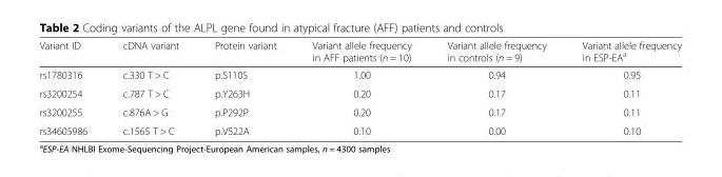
<table><thead><tr><td>Variant ID</td><td>cDNA variant</td><td>Protein variant</td><td>Variant allele frequency in AFF patients (n = 10)</td><td>Variant allele frequency in controls (n = 9)</td><td>Variant allele frequency in ESP-EA<sup>a</sup></td></tr></thead><tbody><tr><td>rs1780316</td><td>c.330 T &gt; C</td><td>p.S110S</td><td>1.00</td><td>0.94</td><td>0.95</td></tr><tr><td>rs3200254</td><td>c.787 T &gt; C</td><td>p.Y263H</td><td>0.20</td><td>0.17</td><td>0.11</td></tr><tr><td>rs3200255</td><td>c.876A &gt; G</td><td>p.P292P</td><td>0.20</td><td>0.17</td><td>0.11</td></tr><tr><td>rs34605986</td><td>c.1565 T &gt; C</td><td>p.V522A</td><td>0.10</td><td>0.00</td><td>0.10</td></tr></tbody></table>